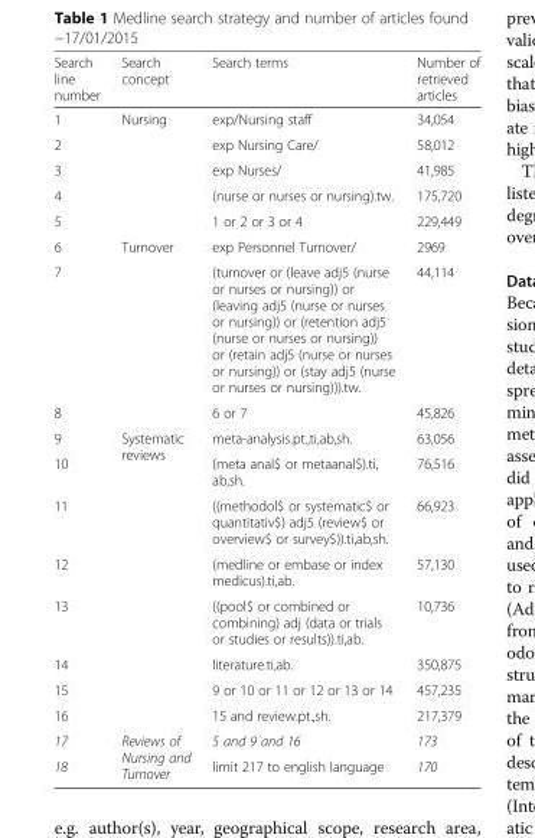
<table><thead><tr><td>Search line number</td><td>Search concept</td><td>Search terms</td><td>Number of retrieved articles</td></tr></thead><tbody><tr><td>1</td><td rowspan="5">Nursing</td><td>exp/Nursing staff</td><td>34,054</td></tr><tr><td>2</td><td>exp Nursing Care/</td><td>58,012</td></tr><tr><td>3</td><td>exp Nurses/</td><td>41,985</td></tr><tr><td>4</td><td>(nurse or nurses or nursing).tw.</td><td>175,720</td></tr><tr><td>5</td><td>1 or 2 or 3 or 4</td><td>229,449</td></tr><tr><td>6</td><td rowspan="3">Turnover</td><td>exp Personnel Turnover/</td><td>2969</td></tr><tr><td>7</td><td>(turnover or (leave adj5 (nurse or nurses or nursing)) or (leaving adj5 (nurse or nurses or nursing)) or (retention adj5 (nurse or nurses or nursing)) or (retain adj5 (nurse or nurses or nursing)) or (stay adj5 (nurse or nurses or nursing))).tw.</td><td>44,114</td></tr><tr><td>8</td><td>6 or 7</td><td>45,826</td></tr><tr><td>9</td><td rowspan="8">Systematic reviews</td><td>meta-analysis.pt.,ti,ab,sh.</td><td>63,056</td></tr><tr><td>10</td><td>(meta anal$ or metaanal$).ti, ab,sh.</td><td>76,516</td></tr><tr><td>11</td><td>((methodol$ or systematic$ or quantitativ$) adj5 (review$ or overview$ or survey$)).ti,ab,sh.</td><td>66,923</td></tr><tr><td>12</td><td>(medline or embase or index medicus).ti,ab.</td><td>57,130</td></tr><tr><td>13</td><td>((pool$ or combined or combining) adj (data or trials or studies or results)).ti,ab.</td><td>10,736</td></tr><tr><td>14</td><td>literature.ti,ab.</td><td>350,875</td></tr><tr><td>15</td><td>9 or 10 or 11 or 12 or 13 or 14</td><td>457,235</td></tr><tr><td>16</td><td>15 and review.pt.,sh.</td><td>217,379</td></tr><tr><td>17</td><td rowspan="2">Reviews of Nursing and Turnover</td><td>5 and 9 and 16</td><td>173</td></tr><tr><td>18</td><td>limit 217 to english language</td><td>170</td></tr></tbody></table>